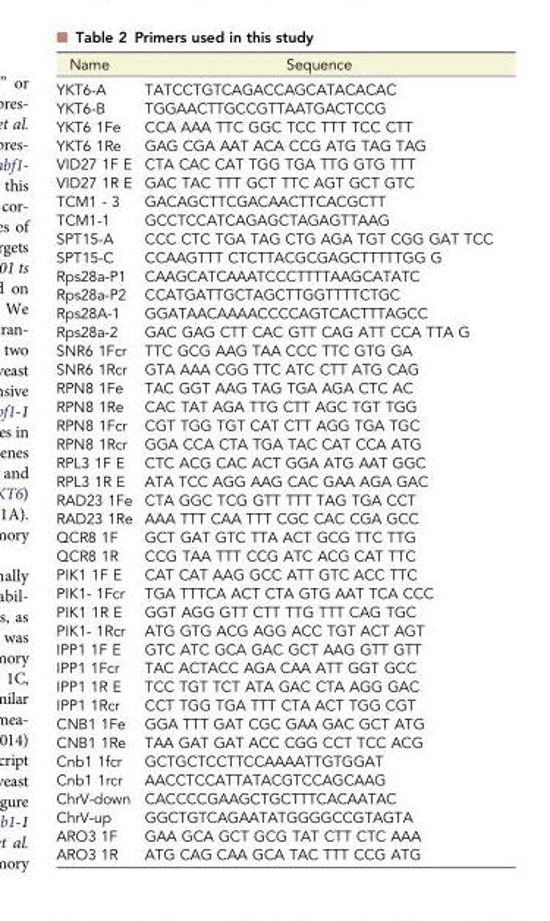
<table><thead><tr><td>Name</td><td>Sequence</td></tr></thead><tbody><tr><td>YKT6-A</td><td>TATCCTGTCAGACCAGCATACACAC</td></tr><tr><td>YKT6-B</td><td>TGGAACTTGCCGTTAATGACTCCG</td></tr><tr><td>YKT6 1Fe</td><td>CCA AAA TTC GGC TCC TTT TCC CTT</td></tr><tr><td>YKT6 1Re</td><td>GAG CGA AAT ACA CCG ATG TAG TAG</td></tr><tr><td>VID27 1F E</td><td>CTA CAC CAT TGG TGA TTG GTG TTT</td></tr><tr><td>VID27 1R E</td><td>GAC TAC TTT GCT TTC AGT GCT GTC</td></tr><tr><td>TCM1 - 3</td><td>GACAGCTTCGACAACTTCACGCTT</td></tr><tr><td>TCM1-1</td><td>GCCTCCATCAGAGCTAGAGTTAAG</td></tr><tr><td>SPT15-A</td><td>CCC CTC TGA TAG CTG AGA TGT CGG GAT TCC</td></tr><tr><td>SPT15-C</td><td>CCAAGTTT CTCTTACGCGAGCTTTTTGG G</td></tr><tr><td>Rps28a-P1</td><td>CAAGCATCAAATCCCTTTTAAGCATATC</td></tr><tr><td>Rps28a-P2</td><td>CCATGATTGCTAGCTTGGTTTTCTGC</td></tr><tr><td>Rps28A-1</td><td>GGATAACAAAACCCCAGTCACTTTAGCC</td></tr><tr><td>Rps28a-2</td><td>GAC GAG CTT CAC GTT CAG ATT CCA TTA G</td></tr><tr><td>SNR6 1Fcr</td><td>TTC GCG AAG TAA CCC TTC GTG GA</td></tr><tr><td>SNR6 1Rcr</td><td>GTA AAA CGG TTC ATC CTT ATG CAG</td></tr><tr><td>RPN8 1Fe</td><td>TAC GGT AAG TAG TGA AGA CTC AC</td></tr><tr><td>RPN8 1Re</td><td>CAC TAT AGA TTG CTT AGC TGT TGG</td></tr><tr><td>RPN8 1Fcr</td><td>CGT TGG TGT CAT CTT AGG TGA TGC</td></tr><tr><td>RPN8 1Rcr</td><td>GGA CCA CTA TGA TAC CAT CCA ATG</td></tr><tr><td>RPL3 1F E</td><td>CTC ACG CAC ACT GGA ATG AAT GGC</td></tr><tr><td>RPL3 1R E</td><td>ATA TCC AGG AAG CAC GAA AGA GAC</td></tr><tr><td>RAD23 1Fe</td><td>CTA GGC TCG GTT TTT TAG TGA CCT</td></tr><tr><td>RAD23 1Re</td><td>AAA TTT CAA TTT CGC CAC CGA GCC</td></tr><tr><td>QCR8 1F</td><td>GCT GAT GTC TTA ACT GCG TTC TTG</td></tr><tr><td>QCR8 1R</td><td>CCG TAA TTT CCG ATC ACG CAT TTC</td></tr><tr><td>PIK1 1F E</td><td>CAT CAT AAG GCC ATT GTC ACC TTC</td></tr><tr><td>PIK1- 1Fcr</td><td>TGA TTTCA ACT CTA GTG AAT TCA CCC</td></tr><tr><td>PIK1 1R E</td><td>GGT AGG GTT CTT TTG TTT CAG TGC</td></tr><tr><td>PIK1- 1Rcr</td><td>ATG GTG ACG AGG ACC TGT ACT AGT</td></tr><tr><td>IPP1 1F E</td><td>GTC ATC GCA GAC GCT AAG GTT GTT</td></tr><tr><td>IPP1 1Fcr</td><td>TAC ACTACC AGA CAA ATT GGT GCC</td></tr><tr><td>IPP1 1R E</td><td>TCC TGT TCT ATA GAC CTA AGG GAC</td></tr><tr><td>IPP1 1Rcr</td><td>CCT TGG TGA TTT CTA ACT TGG CGT</td></tr><tr><td>CNB1 1Fe</td><td>GGA TTT GAT CGC GAA GAC GCT ATG</td></tr><tr><td>CNB1 1Re</td><td>TAA GAT GAT ACC CGG CCT TCC ACG</td></tr><tr><td>Cnb1 1fcr</td><td>GCTGCTCCTTCCAAAATTGTGGAT</td></tr><tr><td>Cnb1 1rcr</td><td>AACCTCCATTATACGTCCAGCAAG</td></tr><tr><td>ChrV-down</td><td>CACCCCGAAGCTGCTTTCACAATAC</td></tr><tr><td>ChrV-up</td><td>GGCTGTCAGAATATGGGGCCGTAGTA</td></tr><tr><td>ARO3 1F</td><td>GAA GCA GCT GCG TAT CTT CTC AAA</td></tr><tr><td>ARO3 1R</td><td>ATG CAG CAA GCA TAC TTT CCG ATG</td></tr></tbody></table>